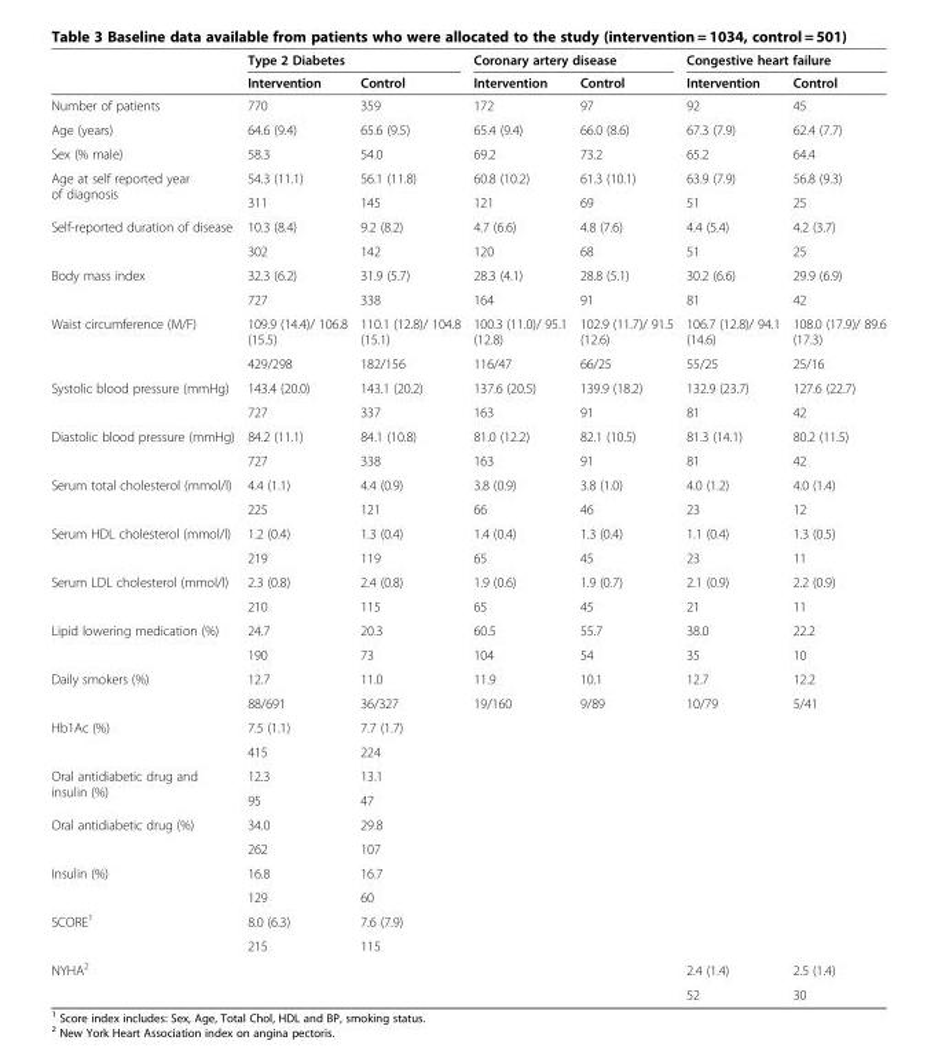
<table><thead><tr><td rowspan="2"></td><td colspan="2">Type 2 Diabetes</td><td colspan="2">Coronary artery disease</td><td colspan="2">Congestive heart failure</td></tr><tr><td>Intervention</td><td>Control</td><td>Intervention</td><td>Control</td><td>Intervention</td><td>Control</td></tr></thead><tbody><tr><td>Number of patients</td><td>770</td><td>359</td><td>172</td><td>97</td><td>92</td><td>45</td></tr><tr><td>Age (years)</td><td>64.6 (9.4)</td><td>65.6 (9.5)</td><td>65.4 (9.4)</td><td>66.0 (8.6)</td><td>67.3 (7.9)</td><td>62.4 (7.7)</td></tr><tr><td>Sex (% male)</td><td>58.3</td><td>54.0</td><td>69.2</td><td>73.2</td><td>65.2</td><td>64.4</td></tr><tr><td rowspan="2">Age at self reported year of diagnosis</td><td>54.3 (11.1)</td><td>56.1 (11.8)</td><td>60.8 (10.2)</td><td>61.3 (10.1)</td><td>63.9 (7.9)</td><td>56.8 (9.3)</td></tr><tr><td>311</td><td>145</td><td>121</td><td>69</td><td>51</td><td>25</td></tr><tr><td rowspan="2">Self-reported duration of disease</td><td>10.3 (8.4)</td><td>9.2 (8.2)</td><td>4.7 (6.6)</td><td>4.8 (7.6)</td><td>4.4 (5.4)</td><td>4.2 (3.7)</td></tr><tr><td>302</td><td>142</td><td>120</td><td>68</td><td>51</td><td>25</td></tr><tr><td rowspan="2">Body mass index</td><td>32.3 (6.2)</td><td>31.9 (5.7)</td><td>28.3 (4.1)</td><td>28.8 (5.1)</td><td>30.2 (6.6)</td><td>29.9 (6.9)</td></tr><tr><td>727</td><td>338</td><td>164</td><td>91</td><td>81</td><td>42</td></tr><tr><td rowspan="2">Waist circumference (M/F)</td><td>109.9 (14.4)/ 106.8 (15.5)</td><td>110.1 (12.8)/ 104.8 (15.1)</td><td>100.3 (11.0)/ 95.1 (12.8)</td><td>102.9 (11.7)/ 91.5 (12.6)</td><td>106.7 (12.8)/ 94.1 (14.6)</td><td>108.0 (17.9)/ 89.6 (17.3)</td></tr><tr><td>429/298</td><td>182/156</td><td>116/47</td><td>66/25</td><td>55/25</td><td>25/16</td></tr><tr><td rowspan="2">Systolic blood pressure (mmHg)</td><td>143.4 (20.0)</td><td>143.1 (20.2)</td><td>137.6 (20.5)</td><td>139.9 (18.2)</td><td>132.9 (23.7)</td><td>127.6 (22.7)</td></tr><tr><td>727</td><td>337</td><td>163</td><td>91</td><td>81</td><td>42</td></tr><tr><td rowspan="2">Diastolic blood pressure (mmHg)</td><td>84.2 (11.1)</td><td>84.1 (10.8)</td><td>81.0 (12.2)</td><td>82.1 (10.5)</td><td>81.3 (14.1)</td><td>80.2 (11.5)</td></tr><tr><td>727</td><td>338</td><td>163</td><td>91</td><td>81</td><td>42</td></tr><tr><td rowspan="2">Serum total cholesterol (mmol/l)</td><td>4.4 (1.1)</td><td>4.4 (0.9)</td><td>3.8 (0.9)</td><td>3.8 (1.0)</td><td>4.0 (1.2)</td><td>4.0 (1.4)</td></tr><tr><td>225</td><td>121</td><td>66</td><td>46</td><td>23</td><td>12</td></tr><tr><td rowspan="2">Serum HDL cholesterol (mmol/l)</td><td>1.2 (0.4)</td><td>1.3 (0.4)</td><td>1.4 (0.4)</td><td>1.3 (0.4)</td><td>1.1 (0.4)</td><td>1.3 (0.5)</td></tr><tr><td>219</td><td>119</td><td>65</td><td>45</td><td>23</td><td>11</td></tr><tr><td rowspan="2">Serum LDL cholesterol (mmol/l)</td><td>2.3 (0.8)</td><td>2.4 (0.8)</td><td>1.9 (0.6)</td><td>1.9 (0.7)</td><td>2.1 (0.9)</td><td>2.2 (0.9)</td></tr><tr><td>210</td><td>115</td><td>65</td><td>45</td><td>21</td><td>11</td></tr><tr><td rowspan="2">Lipid lowering medication (%)</td><td>24.7</td><td>20.3</td><td>60.5</td><td>55.7</td><td>38.0</td><td>22.2</td></tr><tr><td>190</td><td>73</td><td>104</td><td>54</td><td>35</td><td>10</td></tr><tr><td rowspan="2">Daily smokers (%)</td><td>12.7</td><td>11.0</td><td>11.9</td><td>10.1</td><td>12.7</td><td>12.2</td></tr><tr><td>88/691</td><td>36/327</td><td>19/160</td><td>9/89</td><td>10/79</td><td>5/41</td></tr><tr><td rowspan="2">Hb1Ac (%)</td><td>7.5 (1.1)</td><td>7.7 (1.7)</td><td></td><td></td><td></td><td></td></tr><tr><td>415</td><td>224</td><td></td><td></td><td></td><td></td></tr><tr><td rowspan="2">Oral antidiabetic drug and insulin (%)</td><td>12.3</td><td>13.1</td><td></td><td></td><td></td><td></td></tr><tr><td>95</td><td>47</td><td></td><td></td><td></td><td></td></tr><tr><td rowspan="2">Oral antidiabetic drug (%)</td><td>34.0</td><td>29.8</td><td></td><td></td><td></td><td></td></tr><tr><td>262</td><td>107</td><td></td><td></td><td></td><td></td></tr><tr><td rowspan="2">Insulin (%)</td><td>16.8</td><td>16.7</td><td></td><td></td><td></td><td></td></tr><tr><td>129</td><td>60</td><td></td><td></td><td></td><td></td></tr><tr><td rowspan="2">SCORE<sup>1</sup></td><td>8.0 (6.3)</td><td>7.6 (7.9)</td><td></td><td></td><td></td><td></td></tr><tr><td>215</td><td>115</td><td></td><td></td><td></td><td></td></tr><tr><td rowspan="2">NYHA<sup>2</sup></td><td></td><td></td><td></td><td></td><td>2.4 (1.4)</td><td>2.5 (1.4)</td></tr><tr><td></td><td></td><td></td><td></td><td>52</td><td>30</td></tr></tbody></table>